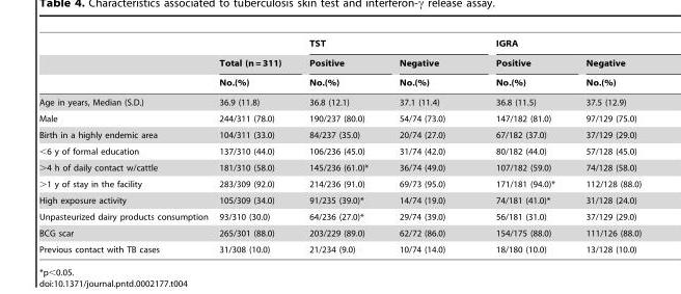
<table><thead><tr><td rowspan="3"></td><td rowspan="3">Total (n = 311) No.(%)</td><td colspan="2">TST</td><td colspan="2">IGRA</td></tr><tr><td rowspan="2">Positive No.(%)</td><td rowspan="2">Negative No.(%)</td><td rowspan="2">Positive No.(%)</td><td rowspan="2">Negative No.(%)</td></tr><tr></tr></thead><tbody><tr><td>Age in years, Median (S.D.)</td><td>36.9 (11.8)</td><td>36.8 (12.1)</td><td>37.1 (11.4)</td><td>36.8 (11.5)</td><td>37.5 (12.9)</td></tr><tr><td>Male</td><td>244/311 (78.0)</td><td>190/237 (80.0)</td><td>54/74 (73.0)</td><td>147/182 (81.0)</td><td>97/129 (75.0)</td></tr><tr><td>Birth in a highly endemic area</td><td>104/311 (33.0)</td><td>84/237 (35.0)</td><td>20/74 (27.0)</td><td>67/182 (37.0)</td><td>37/129 (29.0)</td></tr><tr><td>&lt;6 y of formal education</td><td>137/310 (44.0)</td><td>106/236 (45.0)</td><td>31/74 (42.0)</td><td>80/182 (44.0)</td><td>57/128 (45.0)</td></tr><tr><td>&gt;4 h of daily contact w/cattle</td><td>181/310 (58.0)</td><td>145/236 (61.0)*</td><td>36/74 (49.0)</td><td>107/182 (59.0)</td><td>74/128 (58.0)</td></tr><tr><td>&gt;1 y of stay in the facility</td><td>283/309 (92.0)</td><td>214/236 (91.0)</td><td>69/73 (95.0)</td><td>171/181 (94.0)*</td><td>112/128 (88.0)</td></tr><tr><td>High exposure activity</td><td>105/309 (34.0)</td><td>91/235 (39.0)*</td><td>14/74 (19.0)</td><td>74/181 (41.0)*</td><td>31/128 (24.0)</td></tr><tr><td>Unpasteurized dairy products consumption</td><td>93/310 (30.0)</td><td>64/236 (27.0)*</td><td>29/74 (39.0)</td><td>56/181 (31.0)</td><td>37/129 (29.0)</td></tr><tr><td>BCG scar</td><td>265/301 (88.0)</td><td>203/229 (89.0)</td><td>62/72 (86.0)</td><td>154/175 (88.0)</td><td>111/126 (88.0)</td></tr><tr><td>Previous contact with TB cases</td><td>31/308 (10.0)</td><td>21/234 (9.0)</td><td>10/74 (14.0)</td><td>18/180 (10.0)</td><td>13/128 (10.0)</td></tr></tbody></table>